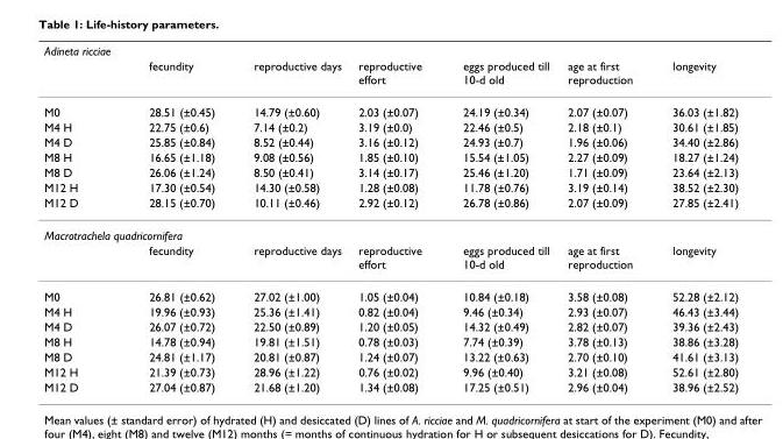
<table><thead><tr><td colspan="2">Adineta ricciae</td><td rowspan="2">reproductive days</td><td rowspan="2">reproductive effort</td><td rowspan="2">eggs produced till 10-d old</td><td rowspan="2">age at first reproduction</td><td rowspan="2">longevity</td></tr><tr><td></td><td>fecundity</td></tr></thead><tbody><tr><td>M0</td><td>28.51 (±0.45)</td><td>14.79 (±0.60)</td><td>2.03 (±0.07)</td><td>24.19 (±0.34)</td><td>2.07 (±0.07)</td><td>36.03 (±1.82)</td></tr><tr><td>M4 H</td><td>22.75 (±0.6)</td><td>7.14 (±0.2)</td><td>3.19 (±0.0)</td><td>22.46 (±0.5)</td><td>2.18 (±0.1)</td><td>30.61 (±1.85)</td></tr><tr><td>M4 D</td><td>25.85 (±0.84)</td><td>8.52 (±0.44)</td><td>3.16 (±0.12)</td><td>24.93 (±0.7)</td><td>1.96 (±0.06)</td><td>34.40 (±2.86)</td></tr><tr><td>M8 H</td><td>16.65 (±1.18)</td><td>9.08 (±0.56)</td><td>1.85 (±0.10)</td><td>15.54 (±1.05)</td><td>2.27 (±0.09)</td><td>18.27 (±1.24)</td></tr><tr><td>M8 D</td><td>26.06 (±1.24)</td><td>8.50 (±0.41)</td><td>3.14 (±0.17)</td><td>25.46 (±1.20)</td><td>1.71 (±0.09)</td><td>23.64 (±2.13)</td></tr><tr><td>M12 H</td><td>17.30 (±0.54)</td><td>14.30 (±0.58)</td><td>1.28 (±0.08)</td><td>11.78 (±0.76)</td><td>3.19 (±0.14)</td><td>38.52 (±2.30)</td></tr><tr><td>M12 D</td><td>28.15 (±0.70)</td><td>10.11 (±0.46)</td><td>2.92 (±0.12)</td><td>26.78 (±0.86)</td><td>2.07 (±0.09)</td><td>27.85 (±2.41)</td></tr><tr><td colspan="7">Macrotrachela quadricornifera</td></tr><tr><td></td><td>fecundity</td><td>reproductive days</td><td>reproductive effort</td><td>eggs produced till 10-d old</td><td>age at first reproduction</td><td>longevity</td></tr><tr><td>M0</td><td>26.81 (±0.62)</td><td>27.02 (±1.00)</td><td>1.05 (±0.04)</td><td>10.84 (±0.18)</td><td>3.58 (±0.08)</td><td>52.28 (±2.12)</td></tr><tr><td>M4 H</td><td>19.96 (±0.93)</td><td>25.36 (±1.41)</td><td>0.82 (±0.04)</td><td>9.46 (±0.34)</td><td>2.93 (±0.07)</td><td>46.43 (±3.44)</td></tr><tr><td>M4 D</td><td>26.07 (±0.72)</td><td>22.50 (±0.89)</td><td>1.20 (±0.05)</td><td>14.32 (±0.49)</td><td>2.82 (±0.07)</td><td>39.36 (±2.43)</td></tr><tr><td>M8 H</td><td>14.78 (±0.94)</td><td>19.81 (±1.51)</td><td>0.78 (±0.03)</td><td>7.74 (±0.39)</td><td>3.78 (±0.13)</td><td>38.86 (±3.28)</td></tr><tr><td>M8 D</td><td>24.81 (±1.17)</td><td>20.81 (±0.87)</td><td>1.24 (±0.07)</td><td>13.22 (±0.63)</td><td>2.70 (±0.10)</td><td>41.61 (±3.13)</td></tr><tr><td>M12 H</td><td>21.39 (±0.73)</td><td>28.96 (±1.22)</td><td>0.76 (±0.02)</td><td>9.96 (±0.40)</td><td>3.21 (±0.08)</td><td>52.61 (±2.80)</td></tr><tr><td>M12 D</td><td>27.04 (±0.87)</td><td>21.68 (±1.20)</td><td>1.34 (±0.08)</td><td>17.25 (±0.51)</td><td>2.96 (±0.04)</td><td>38.96 (±2.52)</td></tr></tbody></table>